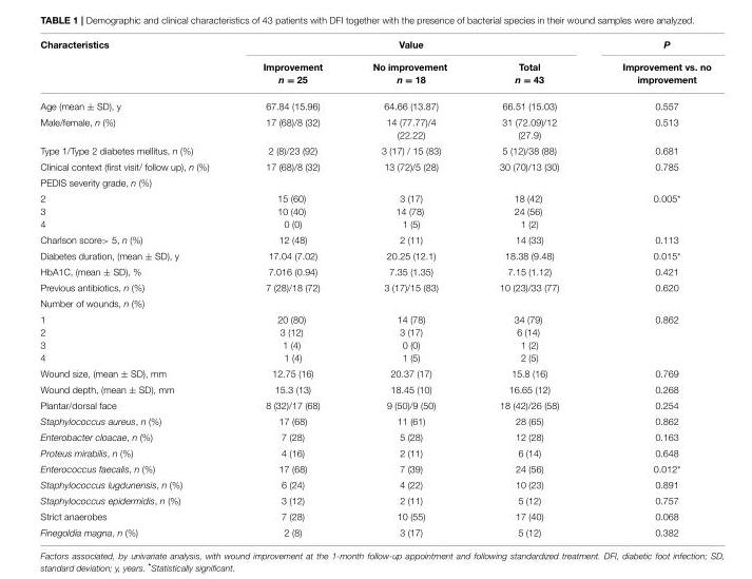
<table><thead><tr><td rowspan="2">Characteristics</td><td colspan="3">Value</td><td rowspan="2">P Improvement vs. no improvement</td></tr><tr><td>Improvement n = 25</td><td>No improvement n = 18</td><td>Total n = 43</td></tr></thead><tbody><tr><td>Age (mean ± SD), y</td><td>67.84 (15.96)</td><td>64.66 (13.87)</td><td>66.51 (15.03)</td><td>0.557</td></tr><tr><td>Male/female, n (%)</td><td>17 (68)/8 (32)</td><td>14 (77.77)/4 (22.22)</td><td>31 (72.09)/12 (27.9)</td><td>0.513</td></tr><tr><td>Type 1/Type 2 diabetes mellitus, n (%)</td><td>2 (8)/23 (92)</td><td>3 (17) / 15 (83)</td><td>5 (12)/38 (88)</td><td>0.681</td></tr><tr><td>Clinical context (first visit/ follow up), n (%)</td><td>17 (68)/8 (32)</td><td>13 (72)/5 (28)</td><td>30 (70)/13 (30)</td><td>0.785</td></tr><tr><td colspan="5">PEDIS severity grade, n (%)</td></tr><tr><td>2 3 4</td><td>15 (60) 10 (40) 0 (0)</td><td>3 (17) 14 (78) 1 (5)</td><td>18 (42) 24 (56) 1 (2)</td><td>0.005*</td></tr><tr><td>Charlson score&gt; 5, n (%)</td><td>12 (48)</td><td>2 (11)</td><td>14 (33)</td><td>0.113</td></tr><tr><td>Diabetes duration, (mean ± SD), y</td><td>17.04 (7.02)</td><td>20.25 (12.1)</td><td>18.38 (9.48)</td><td>0.015*</td></tr><tr><td>HbA1C, (mean ± SD), %</td><td>7.016 (0.94)</td><td>7.35 (1.35)</td><td>7.15 (1.12)</td><td>0.421</td></tr><tr><td>Previous antibiotics, n (%)</td><td>7 (28)/18 (72)</td><td>3 (17)/15 (83)</td><td>10 (23)/33 (77)</td><td>0.620</td></tr><tr><td colspan="5">Number of wounds, n (%)</td></tr><tr><td>1 2 3 4</td><td>20 (80) 3 (12) 1 (4) 1 (4)</td><td>14 (78) 3 (17) 0 (0) 1 (5)</td><td>34 (79) 6 (14) 1 (2) 2 (5)</td><td>0.862</td></tr><tr><td>Wound size, (mean ± SD), mm</td><td>12.75 (16)</td><td>20.37 (17)</td><td>15.8 (16)</td><td>0.769</td></tr><tr><td>Wound depth, (mean ± SD), mm</td><td>15.3 (13)</td><td>18.45 (10)</td><td>16.65 (12)</td><td>0.268</td></tr><tr><td>Plantar/dorsal face</td><td>8 (32)/17 (68)</td><td>9 (50)/9 (50)</td><td>18 (42)/26 (58)</td><td>0.254</td></tr><tr><td>Staphylococcus aureus, n (%)</td><td>17 (68)</td><td>11 (61)</td><td>28 (65)</td><td>0.862</td></tr><tr><td>Enterobacter cloacae, n (%)</td><td>7 (28)</td><td>5 (28)</td><td>12 (28)</td><td>0.163</td></tr><tr><td>Proteus mirabilis, n (%)</td><td>4 (16)</td><td>2 (11)</td><td>6 (14)</td><td>0.648</td></tr><tr><td>Enterococcus faecalis, n (%)</td><td>17 (68)</td><td>7 (39)</td><td>24 (56)</td><td>0.012*</td></tr><tr><td>Staphylococcus lugdunensis, n (%)</td><td>6 (24)</td><td>4 (22)</td><td>10 (23)</td><td>0.891</td></tr><tr><td>Staphylococcus epidermidis, n (%)</td><td>3 (12)</td><td>2 (11)</td><td>5 (12)</td><td>0.757</td></tr><tr><td>Strict anaerobes</td><td>7 (28)</td><td>10 (55)</td><td>17 (40)</td><td>0.068</td></tr><tr><td>Finegoldia magna, n (%)</td><td>2 (8)</td><td>3 (17)</td><td>5 (12)</td><td>0.382</td></tr></tbody></table>